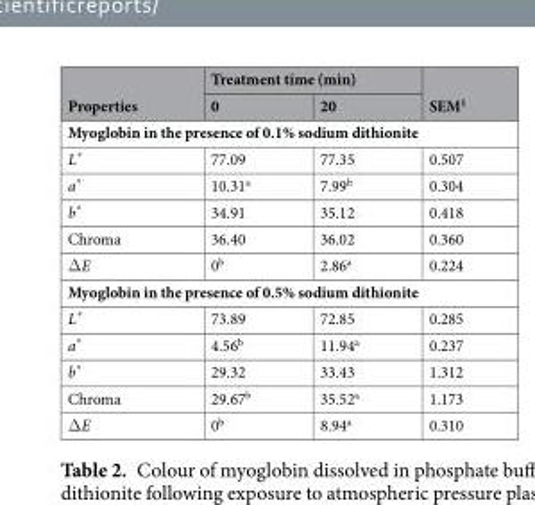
<table><thead><tr><td rowspan="2">Properties</td><td colspan="2">Treatment time (min)</td><td rowspan="2">SEM<sup>1</sup></td></tr><tr><td>0</td><td>20</td></tr></thead><tbody><tr><td colspan="4">Myoglobin in the presence of 0.1% sodium dithionite</td></tr><tr><td>L*</td><td>77.09</td><td>77.35</td><td>0.507</td></tr><tr><td>a*</td><td>10.31<sup>a</sup></td><td>7.99<sup>b</sup></td><td>0.304</td></tr><tr><td>b*</td><td>34.91</td><td>35.12</td><td>0.418</td></tr><tr><td>Chroma</td><td>36.40</td><td>36.02</td><td>0.360</td></tr><tr><td>ΔE</td><td>0<sup>b</sup></td><td>2.86<sup>a</sup></td><td>0.224</td></tr><tr><td colspan="4">Myoglobin in the presence of 0.5% sodium dithionite</td></tr><tr><td>L*</td><td>73.89</td><td>72.85</td><td>0.285</td></tr><tr><td>a*</td><td>4.56<sup>b</sup></td><td>11.94<sup>a</sup></td><td>0.237</td></tr><tr><td>b*</td><td>29.32</td><td>33.43</td><td>1.312</td></tr><tr><td>Chroma</td><td>29.67<sup>b</sup></td><td>35.52<sup>a</sup></td><td>1.173</td></tr><tr><td>ΔE</td><td>0<sup>b</sup></td><td>8.94<sup>a</sup></td><td>0.310</td></tr></tbody></table>